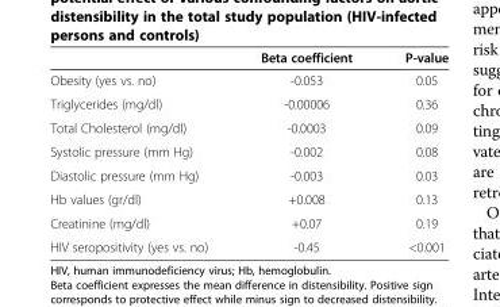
<table><thead><tr><td></td><td>Beta coefficient</td><td>P-value</td></tr></thead><tbody><tr><td>Obesity (yes vs. no)</td><td>-0.053</td><td>0.05</td></tr><tr><td>Triglycerides (mg/dl)</td><td>-0.00006</td><td>0.36</td></tr><tr><td>Total Cholesterol (mg/dl)</td><td>-0.0003</td><td>0.09</td></tr><tr><td>Systolic pressure (mm Hg)</td><td>-0.002</td><td>0.08</td></tr><tr><td>Diastolic pressure (mm Hg)</td><td>-0.003</td><td>0.03</td></tr><tr><td>Hb values (gr/dl)</td><td>+0.008</td><td>0.13</td></tr><tr><td>Creatinine (mg/dl)</td><td>+0.07</td><td>0.19</td></tr><tr><td>HIV seropositivity (yes vs. no)</td><td>-0.45</td><td>&lt;0.001</td></tr></tbody></table>